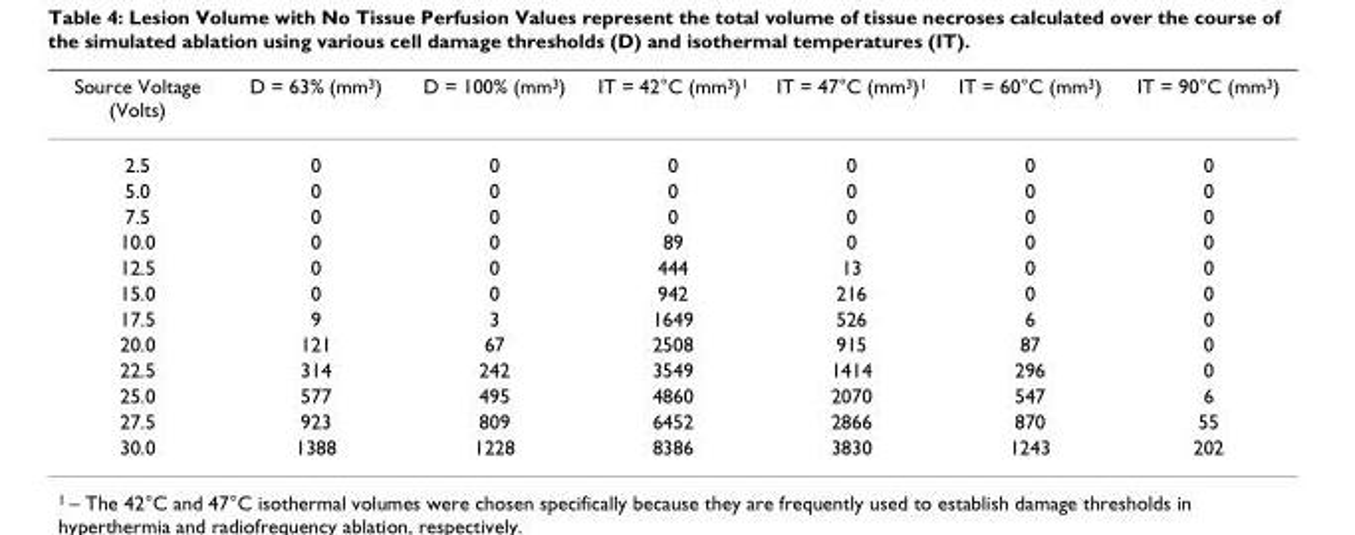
<table><thead><tr><td>Source Voltage (Volts)</td><td>D = 63% (mm<sup>3</sup>)</td><td>D = 100% (mm<sup>3</sup>)</td><td>IT = 42°C (mm<sup>3</sup>)<sup>1</sup></td><td>IT = 47°C (mm<sup>3</sup>)<sup>1</sup></td><td>IT = 60°C (mm<sup>3</sup>)</td><td>IT = 90°C (mm<sup>3</sup>)</td></tr></thead><tbody><tr><td>2.5</td><td>0</td><td>0</td><td>0</td><td>0</td><td>0</td><td>0</td></tr><tr><td>5.0</td><td>0</td><td>0</td><td>0</td><td>0</td><td>0</td><td>0</td></tr><tr><td>7.5</td><td>0</td><td>0</td><td>0</td><td>0</td><td>0</td><td>0</td></tr><tr><td>10.0</td><td>0</td><td>0</td><td>89</td><td>0</td><td>0</td><td>0</td></tr><tr><td>12.5</td><td>0</td><td>0</td><td>444</td><td>13</td><td>0</td><td>0</td></tr><tr><td>15.0</td><td>0</td><td>0</td><td>942</td><td>216</td><td>0</td><td>0</td></tr><tr><td>17.5</td><td>9</td><td>3</td><td>1649</td><td>526</td><td>6</td><td>0</td></tr><tr><td>20.0</td><td>121</td><td>67</td><td>2508</td><td>915</td><td>87</td><td>0</td></tr><tr><td>22.5</td><td>314</td><td>242</td><td>3549</td><td>1414</td><td>296</td><td>0</td></tr><tr><td>25.0</td><td>577</td><td>495</td><td>4860</td><td>2070</td><td>547</td><td>6</td></tr><tr><td>27.5</td><td>923</td><td>809</td><td>6452</td><td>2866</td><td>870</td><td>55</td></tr><tr><td>30.0</td><td>1388</td><td>1228</td><td>8386</td><td>3830</td><td>1243</td><td>202</td></tr></tbody></table>